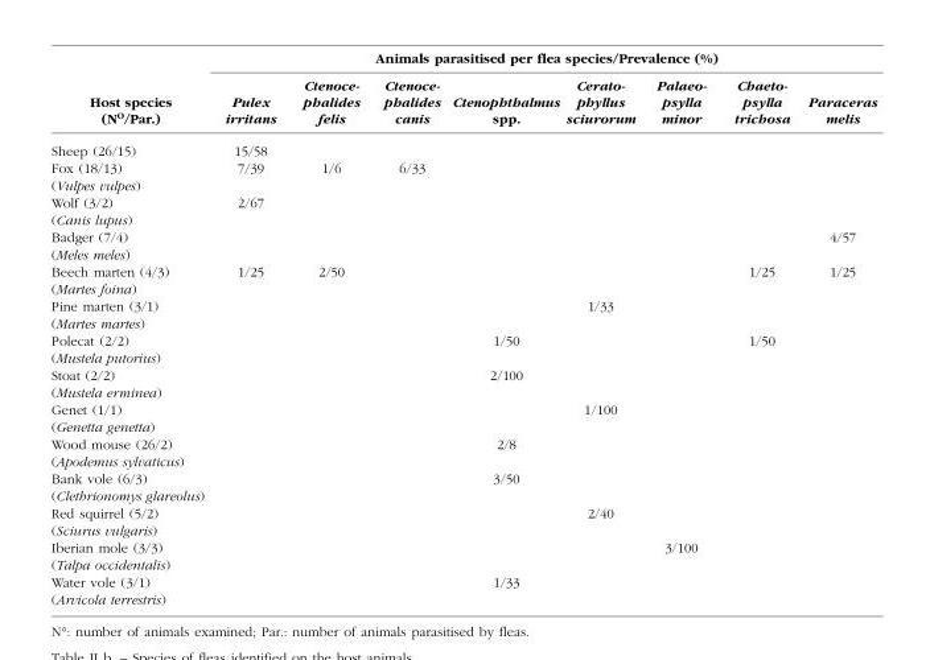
<table><thead><tr><td rowspan="2">Host species (N<sup>O</sup>/Par.)</td><td colspan="8">Animals parasitised per flea species/Prevalence (%)</td></tr><tr><td>Pulex irritans</td><td>Ctenoce- phalides felis</td><td>Ctenoce- phalides canis</td><td>Ctenophthalmus spp.</td><td>Cerato- phyllus sciurorum</td><td>Palaeo- psylla minor</td><td>Chaeto- psylla trichosa</td><td>Paraceras melis</td></tr></thead><tbody><tr><td>Sheep (26/15)</td><td>15/58</td><td></td><td></td><td></td><td></td><td></td><td></td><td></td></tr><tr><td>Fox (18/13) (Vulpes vulpes)</td><td>7/39</td><td>1/6</td><td>6/33</td><td></td><td></td><td></td><td></td><td></td></tr><tr><td>Wolf (3/2) (Canis lupus)</td><td>2/67</td><td></td><td></td><td></td><td></td><td></td><td></td><td></td></tr><tr><td>Badger (7/4) (Meles meles)</td><td></td><td></td><td></td><td></td><td></td><td></td><td></td><td>4/57</td></tr><tr><td>Beech marten (4/3) (Martes foina)</td><td>1/25</td><td>2/50</td><td></td><td></td><td></td><td></td><td>1/25</td><td>1/25</td></tr><tr><td>Pine marten (3/1) (Martes martes)</td><td></td><td></td><td></td><td></td><td>1/33</td><td></td><td></td><td></td></tr><tr><td>Polecat (2/2) (Mustela putorius)</td><td></td><td></td><td></td><td>1/50</td><td></td><td></td><td>1/50</td><td></td></tr><tr><td>Stoat (2/2) (Mustela erminea)</td><td></td><td></td><td></td><td>2/100</td><td></td><td></td><td></td><td></td></tr><tr><td>Genet (1/1) (Genetta genetta)</td><td></td><td></td><td></td><td></td><td>1/100</td><td></td><td></td><td></td></tr><tr><td>Wood mouse (26/2) (Apodemus sylvaticus)</td><td></td><td></td><td></td><td>2/8</td><td></td><td></td><td></td><td></td></tr><tr><td>Bank vole (6/3) (Clethrionomys glareolus)</td><td></td><td></td><td></td><td>3/50</td><td></td><td></td><td></td><td></td></tr><tr><td>Red squirrel (5/2) (Sciurus vulgaris)</td><td></td><td></td><td></td><td></td><td>2/40</td><td></td><td></td><td></td></tr><tr><td>Iberian mole (3/3) (Talpa occidentalis)</td><td></td><td></td><td></td><td></td><td></td><td>3/100</td><td></td><td></td></tr><tr><td>Water vole (3/1) (Arvicola terrestris)</td><td></td><td></td><td></td><td>1/33</td><td></td><td></td><td></td><td></td></tr></tbody></table>